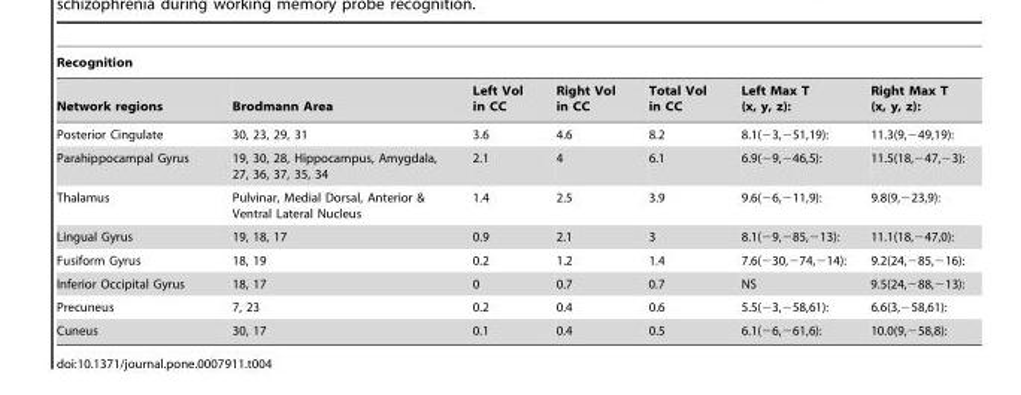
<table><thead><tr><td colspan="7">Recognition</td></tr><tr><td>Network regions</td><td>Brodmann Area</td><td>Left Vol in CC</td><td>Right Vol in CC</td><td>Total Vol in CC</td><td>Left Max T (x, y, z):</td><td>Right Max T (x, y, z):</td></tr></thead><tbody><tr><td>Posterior Cingulate</td><td>30, 23, 29, 31</td><td>3.6</td><td>4.6</td><td>8.2</td><td>8.1(−3,−51,19):</td><td>11.3(9,−49,19):</td></tr><tr><td>Parahippocampal Gyrus</td><td>19, 30, 28, Hippocampus, Amygdala, 27, 36, 37, 35, 34</td><td>2.1</td><td>4</td><td>6.1</td><td>6.9(−9,−46,5):</td><td>11.5(18,−47,−3):</td></tr><tr><td>Thalamus</td><td>Pulvinar, Medial Dorsal, Anterior &amp; Ventral Lateral Nucleus</td><td>1.4</td><td>2.5</td><td>3.9</td><td>9.6(−6,−11,9):</td><td>9.8(9,−23,9):</td></tr><tr><td>Lingual Gyrus</td><td>19, 18, 17</td><td>0.9</td><td>2.1</td><td>3</td><td>8.1(−9,−85,−13):</td><td>11.1(18,−47,0):</td></tr><tr><td>Fusiform Gyrus</td><td>18, 19</td><td>0.2</td><td>1.2</td><td>1.4</td><td>7.6(−30,−74,−14):</td><td>9.2(24,−85,−16):</td></tr><tr><td>Inferior Occipital Gyrus</td><td>18, 17</td><td>0</td><td>0.7</td><td>0.7</td><td>NS</td><td>9.5(24,−88,−13):</td></tr><tr><td>Precuneus</td><td>7, 23</td><td>0.2</td><td>0.4</td><td>0.6</td><td>5.5(−3,−58,61):</td><td>6.6(3,−58,61):</td></tr><tr><td>Cuneus</td><td>30, 17</td><td>0.1</td><td>0.4</td><td>0.5</td><td>6.1(−6,−61,6):</td><td>10.0(9,−58,8):</td></tr></tbody></table>